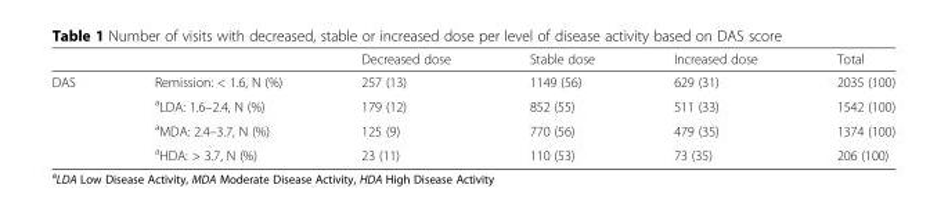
<table><thead><tr><td></td><td></td><td>Decreased dose</td><td>Stable dose</td><td>Increased dose</td><td>Total</td></tr></thead><tbody><tr><td rowspan="4">DAS</td><td>Remission: &lt; 1.6, N (%)</td><td>257 (13)</td><td>1149 (56)</td><td>629 (31)</td><td>2035 (100)</td></tr><tr><td><sup>a</sup>LDA: 1.6–2.4, N (%)</td><td>179 (12)</td><td>852 (55)</td><td>511 (33)</td><td>1542 (100)</td></tr><tr><td><sup>a</sup>MDA: 2.4–3.7, N (%)</td><td>125 (9)</td><td>770 (56)</td><td>479 (35)</td><td>1374 (100)</td></tr><tr><td><sup>a</sup>HDA: &gt; 3.7, N (%)</td><td>23 (11)</td><td>110 (53)</td><td>73 (35)</td><td>206 (100)</td></tr></tbody></table>